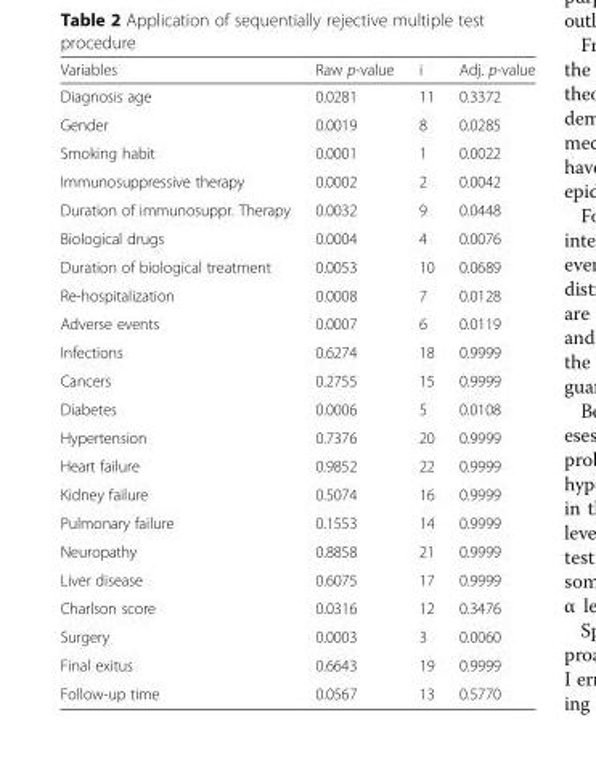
<table><thead><tr><td>Variables</td><td>Raw p-value</td><td>i</td><td>Adj. p-value</td></tr></thead><tbody><tr><td>Diagnosis age</td><td>0.0281</td><td>11</td><td>0.3372</td></tr><tr><td>Gender</td><td>0.0019</td><td>8</td><td>0.0285</td></tr><tr><td>Smoking habit</td><td>0.0001</td><td>1</td><td>0.0022</td></tr><tr><td>Immunosuppressive therapy</td><td>0.0002</td><td>2</td><td>0.0042</td></tr><tr><td>Duration of immunosuppr. Therapy</td><td>0.0032</td><td>9</td><td>0.0448</td></tr><tr><td>Biological drugs</td><td>0.0004</td><td>4</td><td>0.0076</td></tr><tr><td>Duration of biological treatment</td><td>0.0053</td><td>10</td><td>0.0689</td></tr><tr><td>Re-hospitalization</td><td>0.0008</td><td>7</td><td>0.0128</td></tr><tr><td>Adverse events</td><td>0.0007</td><td>6</td><td>0.0119</td></tr><tr><td>Infections</td><td>0.6274</td><td>18</td><td>0.9999</td></tr><tr><td>Cancers</td><td>0.2755</td><td>15</td><td>0.9999</td></tr><tr><td>Diabetes</td><td>0.0006</td><td>5</td><td>0.0108</td></tr><tr><td>Hypertension</td><td>0.7376</td><td>20</td><td>0.9999</td></tr><tr><td>Heart failure</td><td>0.9852</td><td>22</td><td>0.9999</td></tr><tr><td>Kidney failure</td><td>0.5074</td><td>16</td><td>0.9999</td></tr><tr><td>Pulmonary failure</td><td>0.1553</td><td>14</td><td>0.9999</td></tr><tr><td>Neuropathy</td><td>0.8858</td><td>21</td><td>0.9999</td></tr><tr><td>Liver disease</td><td>0.6075</td><td>17</td><td>0.9999</td></tr><tr><td>Charlson score</td><td>0.0316</td><td>12</td><td>0.3476</td></tr><tr><td>Surgery</td><td>0.0003</td><td>3</td><td>0.0060</td></tr><tr><td>Final exitus</td><td>0.6643</td><td>19</td><td>0.9999</td></tr><tr><td>Follow-up time</td><td>0.0567</td><td>13</td><td>0.5770</td></tr></tbody></table>